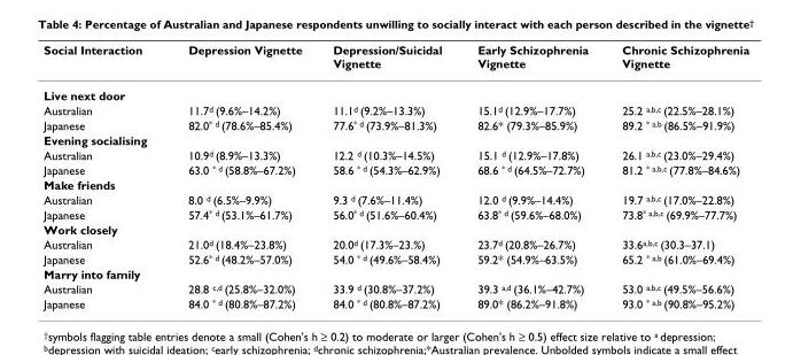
<table><thead><tr><td>Social Interaction</td><td>Depression Vignette</td><td>Depression/Suicidal Vignette</td><td>Early Schizophrenia Vignette</td><td>Chronic Schizophrenia Vignette</td></tr></thead><tbody><tr><td colspan="5">Live next door</td></tr><tr><td>Australian</td><td>11.7<sup>d</sup> (9.6%–14.2%)</td><td>11.1<sup>d</sup> (9.2%–13.3%)</td><td>15.1<sup>d</sup> (12.9%–17.7%)</td><td>25.2 <sup>a,b,c</sup> (22.5%–28.1%)</td></tr><tr><td>Japanese</td><td>82.0<sup>* d</sup> (78.6%–85.4%)</td><td>77.6<sup>* d</sup> (73.9%–81.3%)</td><td>82.6* (79.3%–85.9%)</td><td>89.2 <sup>* a,b</sup> (86.5%–91.9%)</td></tr><tr><td colspan="5">Evening socialising</td></tr><tr><td>Australian</td><td>10.9<sup>d</sup> (8.9%–13.3%)</td><td>12.2 <sup>d</sup> (10.3%–14.5%)</td><td>15.1 <sup>d</sup> (12.9%–17.8%)</td><td>26.1 <sup>a,b,c</sup> (23.0%–29.4%)</td></tr><tr><td>Japanese</td><td>63.0 <sup>* d</sup> (58.8%–67.2%)</td><td>58.6 <sup>* d</sup> (54.3%–62.9%)</td><td>68.6 <sup>* d</sup> (64.5%–72.7%)</td><td>81.2 <sup>* a,b,c</sup> (77.8%–84.6%)</td></tr><tr><td colspan="5">Make friends</td></tr><tr><td>Australian</td><td>8.0 <sup>d</sup> (6.5%–9.9%)</td><td>9.3 <sup>d</sup> (7.6%–11.4%)</td><td>12.0 <sup>d</sup> (9.9%–14.4%)</td><td>19.7 <sup>a,b,c</sup> (17.0%–22.8%)</td></tr><tr><td>Japanese</td><td>57.4<sup>* d</sup> (53.1%–61.7%)</td><td>56.0<sup>* d</sup> (51.6%–60.4%)</td><td>63.8<sup>* d</sup> (59.6%–68.0%)</td><td>73.8<sup>* a,b,c</sup> (69.9%–77.7%)</td></tr><tr><td colspan="5">Work closely</td></tr><tr><td>Australian</td><td>21.0<sup>d</sup> (18.4%–23.8%)</td><td>20.0<sup>d</sup> (17.3%–23.%)</td><td>23.7<sup>d</sup> (20.8%–26.7%)</td><td>33.6<sup>a,b,c</sup> (30.3–37.1)</td></tr><tr><td>Japanese</td><td>52.6<sup>* d</sup> (48.2%–57.0%)</td><td>54.0 <sup>* d</sup> (49.6%–58.4%)</td><td>59.2* (54.9%–63.5%)</td><td>65.2 <sup>* a,b</sup> (61.0%–69.4%)</td></tr><tr><td colspan="5">Marry into family</td></tr><tr><td>Australian</td><td>28.8 <sup>c,d</sup> (25.8%–32.0%)</td><td>33.9 <sup>d</sup> (30.8%–37.2%)</td><td>39.3 <sup>a,d</sup> (36.1%–42.7%)</td><td>53.0 <sup>a,b,c</sup> (49.5%–56.6%)</td></tr><tr><td>Japanese</td><td>84.0 <sup>* d</sup> (80.8%–87.2%)</td><td>84.0 <sup>* d</sup> (80.8%–87.2%)</td><td>89.0* (86.2%–91.8%)</td><td>93.0 <sup>* a,b</sup> (90.8%–95.2%)</td></tr></tbody></table>